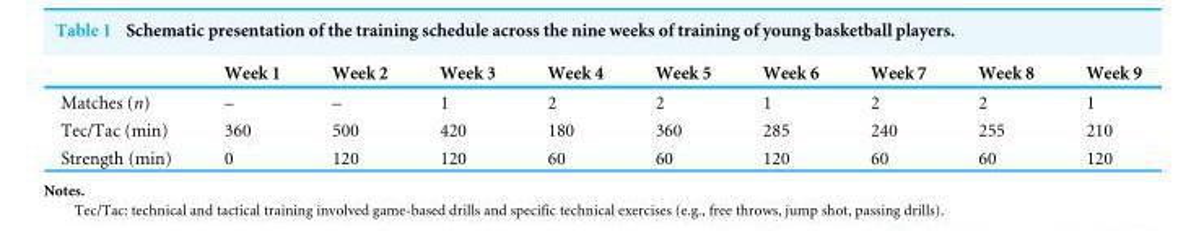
<table><thead><tr><td></td><td>Week 1</td><td>Week 2</td><td>Week 3</td><td>Week 4</td><td>Week 5</td><td>Week 6</td><td>Week 7</td><td>Week 8</td><td>Week 9</td></tr></thead><tbody><tr><td>Matches (n)</td><td>–</td><td>–</td><td>1</td><td>2</td><td>2</td><td>1</td><td>2</td><td>2</td><td>1</td></tr><tr><td>Tec/Tac (min)</td><td>360</td><td>500</td><td>420</td><td>180</td><td>360</td><td>285</td><td>240</td><td>255</td><td>210</td></tr><tr><td>Strength (min)</td><td>0</td><td>120</td><td>120</td><td>60</td><td>60</td><td>120</td><td>60</td><td>60</td><td>120</td></tr></tbody></table>